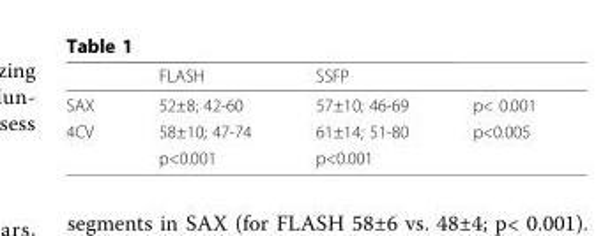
<table><thead><tr><td></td><td>FLASH</td><td>SSFP</td><td></td></tr></thead><tbody><tr><td>SAX</td><td>52±8; 42-60</td><td>57±10; 46-69</td><td>p&lt; 0.001</td></tr><tr><td rowspan="2">4CV</td><td>58±10; 47-74</td><td>61±14; 51-80</td><td>p&lt;0.005</td></tr><tr><td>p&lt;0.001</td><td>p&lt;0.001</td><td></td></tr></tbody></table>